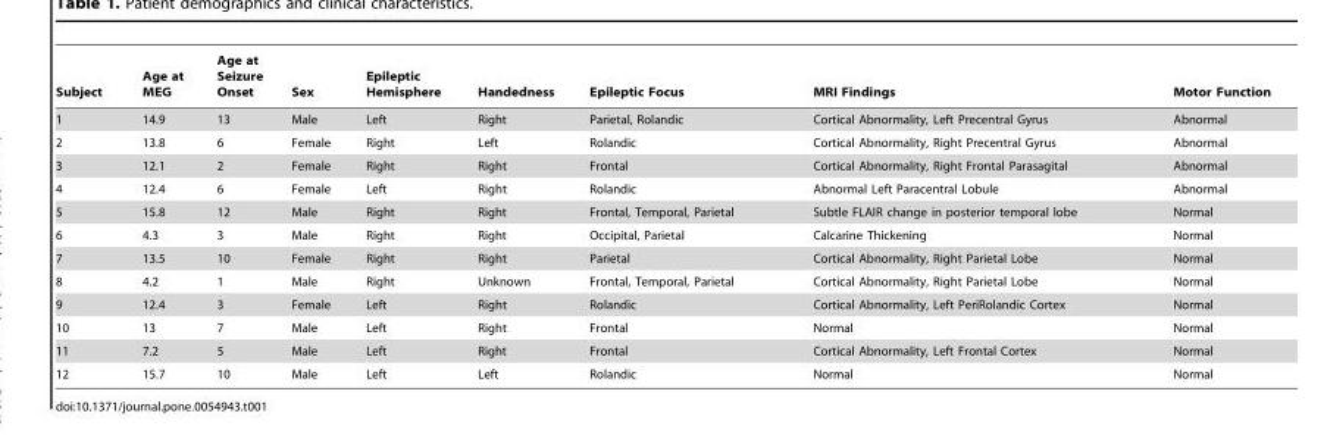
<table><thead><tr><td>Subject</td><td>Age at MEG</td><td>Age at Seizure Onset</td><td>Sex</td><td>Epileptic Hemisphere</td><td>Handedness</td><td>Epileptic Focus</td><td>MRI Findings</td><td>Motor Function</td></tr></thead><tbody><tr><td>1</td><td>14.9</td><td>13</td><td>Male</td><td>Left</td><td>Right</td><td>Parietal, Rolandic</td><td>Cortical Abnormality, Left Precentral Gyrus</td><td>Abnormal</td></tr><tr><td>2</td><td>13.8</td><td>6</td><td>Female</td><td>Right</td><td>Left</td><td>Rolandic</td><td>Cortical Abnormality, Right Precentral Gyrus</td><td>Abnormal</td></tr><tr><td>3</td><td>12.1</td><td>2</td><td>Female</td><td>Right</td><td>Right</td><td>Frontal</td><td>Cortical Abnormality, Right Frontal Parasagital</td><td>Abnormal</td></tr><tr><td>4</td><td>12.4</td><td>6</td><td>Female</td><td>Left</td><td>Right</td><td>Rolandic</td><td>Abnormal Left Paracentral Lobule</td><td>Abnormal</td></tr><tr><td>5</td><td>15.8</td><td>12</td><td>Male</td><td>Right</td><td>Right</td><td>Frontal, Temporal, Parietal</td><td>Subtle FLAIR change in posterior temporal lobe</td><td>Normal</td></tr><tr><td>6</td><td>4.3</td><td>3</td><td>Male</td><td>Right</td><td>Right</td><td>Occipital, Parietal</td><td>Calcarine Thickening</td><td>Normal</td></tr><tr><td>7</td><td>13.5</td><td>10</td><td>Female</td><td>Right</td><td>Right</td><td>Parietal</td><td>Cortical Abnormality, Right Parietal Lobe</td><td>Normal</td></tr><tr><td>8</td><td>4.2</td><td>1</td><td>Male</td><td>Right</td><td>Unknown</td><td>Frontal, Temporal, Parietal</td><td>Cortical Abnormality, Right Parietal Lobe</td><td>Normal</td></tr><tr><td>9</td><td>12.4</td><td>3</td><td>Female</td><td>Left</td><td>Right</td><td>Rolandic</td><td>Cortical Abnormality, Left PeriRolandic Cortex</td><td>Normal</td></tr><tr><td>10</td><td>13</td><td>7</td><td>Male</td><td>Left</td><td>Right</td><td>Frontal</td><td>Normal</td><td>Normal</td></tr><tr><td>11</td><td>7.2</td><td>5</td><td>Male</td><td>Left</td><td>Right</td><td>Frontal</td><td>Cortical Abnormality, Left Frontal Cortex</td><td>Normal</td></tr><tr><td>12</td><td>15.7</td><td>10</td><td>Male</td><td>Left</td><td>Left</td><td>Rolandic</td><td>Normal</td><td>Normal</td></tr></tbody></table>